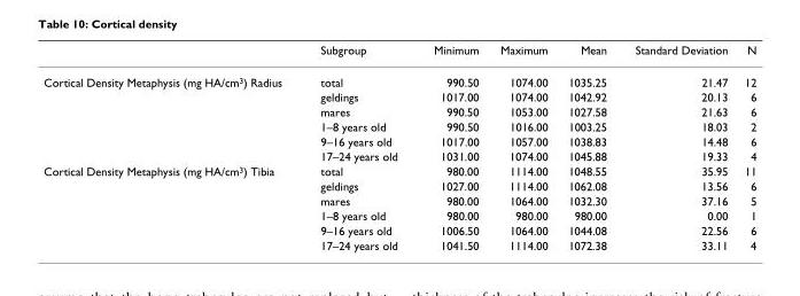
<table><thead><tr><td></td><td>Subgroup</td><td>Minimum</td><td>Maximum</td><td>Mean</td><td>Standard Deviation</td><td>N</td></tr></thead><tbody><tr><td rowspan="6">Cortical Density Metaphysis (mg HA/cm<sup>3</sup>) Radius</td><td>total</td><td>990.50</td><td>1074.00</td><td>1035.25</td><td>21.47</td><td>12</td></tr><tr><td>geldings</td><td>1017.00</td><td>1074.00</td><td>1042.92</td><td>20.13</td><td>6</td></tr><tr><td>mares</td><td>990.50</td><td>1053.00</td><td>1027.58</td><td>21.63</td><td>6</td></tr><tr><td>1–8 years old</td><td>990.50</td><td>1016.00</td><td>1003.25</td><td>18.03</td><td>2</td></tr><tr><td>9–16 years old</td><td>1017.00</td><td>1057.00</td><td>1038.83</td><td>14.48</td><td>6</td></tr><tr><td>17–24 years old</td><td>1031.00</td><td>1074.00</td><td>1045.88</td><td>19.33</td><td>4</td></tr><tr><td rowspan="6">Cortical Density Metaphysis (mg HA/cm<sup>3</sup>) Tibia</td><td>total</td><td>980.00</td><td>1114.00</td><td>1048.55</td><td>35.95</td><td>11</td></tr><tr><td>geldings</td><td>1027.00</td><td>1114.00</td><td>1062.08</td><td>13.56</td><td>6</td></tr><tr><td>mares</td><td>980.00</td><td>1064.00</td><td>1032.30</td><td>37.16</td><td>5</td></tr><tr><td>1–8 years old</td><td>980.00</td><td>980.00</td><td>980.00</td><td>0.00</td><td>1</td></tr><tr><td>9–16 years old</td><td>1006.50</td><td>1064.00</td><td>1044.08</td><td>22.56</td><td>6</td></tr><tr><td>17–24 years old</td><td>1041.50</td><td>1114.00</td><td>1072.38</td><td>33.11</td><td>4</td></tr></tbody></table>